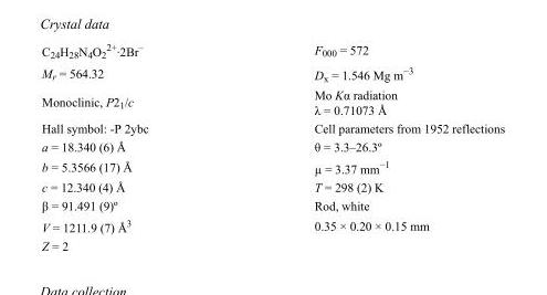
<table><tbody><tr><td>C<sub>24</sub>H<sub>28</sub>N<sub>4</sub>O<sub>2</sub> <sup>2+</sup>·2Br<sup>–</sup></td><td>F000 = 572</td></tr><tr><td>M<sub>r</sub> = 564.32</td><td>D<sub>x</sub> = 1.546 Mg m<sup>−3</sup></td></tr><tr><td>Monoclinic, P2<sub>1</sub>/c</td><td>Mo Kα radiation λ = 0.71073 Å</td></tr><tr><td>Hall symbol: -P 2ybc</td><td>Cell parameters from 1952 reflections</td></tr><tr><td>a = 18.340 (6) Å</td><td>θ = 3.3–26.3º</td></tr><tr><td>b = 5.3566 (17) Å</td><td>µ = 3.37 mm<sup>−1</sup></td></tr><tr><td>c = 12.340 (4) Å</td><td>T = 298 (2) K</td></tr><tr><td>β = 91.491 (9)º</td><td>Rod, white</td></tr><tr><td>V = 1211.9 (7) Å<sup>3</sup></td><td>0.35 × 0.20 × 0.15 mm</td></tr><tr><td>Z = 2</td><td></td></tr></tbody></table>